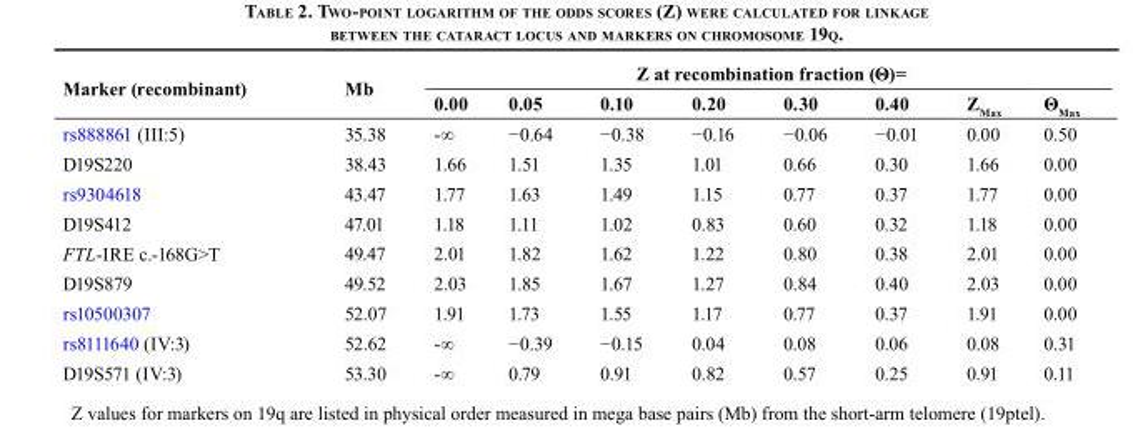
<table><thead><tr><td rowspan="2">Marker (recombinant)</td><td rowspan="2">Mb</td><td colspan="8">Z at recombination fraction (Θ)=</td></tr><tr><td>0.00</td><td>0.05</td><td>0.10</td><td>0.20</td><td>0.30</td><td>0.40</td><td>Z<sub>Max</sub></td><td>Θ<sub>Max</sub></td></tr></thead><tbody><tr><td>rs888861 (III:5)</td><td>35.38</td><td>-∞</td><td>−0.64</td><td>−0.38</td><td>−0.16</td><td>−0.06</td><td>−0.01</td><td>0.00</td><td>0.50</td></tr><tr><td>D19S220</td><td>38.43</td><td>1.66</td><td>1.51</td><td>1.35</td><td>1.01</td><td>0.66</td><td>0.30</td><td>1.66</td><td>0.00</td></tr><tr><td>rs9304618</td><td>43.47</td><td>1.77</td><td>1.63</td><td>1.49</td><td>1.15</td><td>0.77</td><td>0.37</td><td>1.77</td><td>0.00</td></tr><tr><td>D19S412</td><td>47.01</td><td>1.18</td><td>1.11</td><td>1.02</td><td>0.83</td><td>0.60</td><td>0.32</td><td>1.18</td><td>0.00</td></tr><tr><td>FTL-IRE c.-168G&gt;T</td><td>49.47</td><td>2.01</td><td>1.82</td><td>1.62</td><td>1.22</td><td>0.80</td><td>0.38</td><td>2.01</td><td>0.00</td></tr><tr><td>D19S879</td><td>49.52</td><td>2.03</td><td>1.85</td><td>1.67</td><td>1.27</td><td>0.84</td><td>0.40</td><td>2.03</td><td>0.00</td></tr><tr><td>rs10500307</td><td>52.07</td><td>1.91</td><td>1.73</td><td>1.55</td><td>1.17</td><td>0.77</td><td>0.37</td><td>1.91</td><td>0.00</td></tr><tr><td>rs8111640 (IV:3)</td><td>52.62</td><td>-∞</td><td>−0.39</td><td>−0.15</td><td>0.04</td><td>0.08</td><td>0.06</td><td>0.08</td><td>0.31</td></tr><tr><td>D19S571 (IV:3)</td><td>53.30</td><td>-∞</td><td>0.79</td><td>0.91</td><td>0.82</td><td>0.57</td><td>0.25</td><td>0.91</td><td>0.11</td></tr></tbody></table>